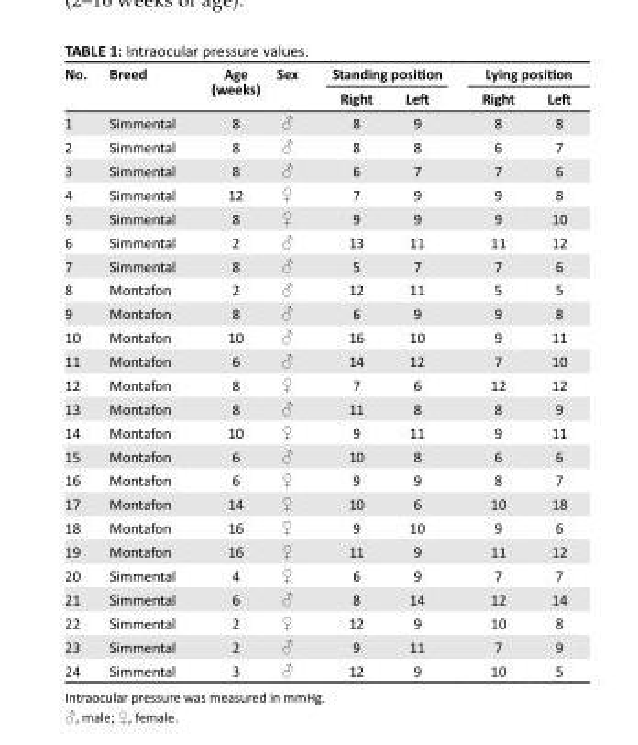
<table><thead><tr><td rowspan="2">No.</td><td rowspan="2">Breed</td><td rowspan="2">Age (weeks)</td><td rowspan="2">Sex</td><td colspan="2">Standing position</td><td colspan="2">Lying position</td></tr><tr><td>Right</td><td>Left</td><td>Right</td><td>Left</td></tr></thead><tbody><tr><td>1</td><td>Simmental</td><td>8</td><td>♂</td><td>8</td><td>9</td><td>8</td><td>8</td></tr><tr><td>2</td><td>Simmental</td><td>8</td><td>♂</td><td>8</td><td>8</td><td>6</td><td>7</td></tr><tr><td>3</td><td>Simmental</td><td>8</td><td>♂</td><td>6</td><td>7</td><td>7</td><td>6</td></tr><tr><td>4</td><td>Simmental</td><td>12</td><td>♀</td><td>7</td><td>9</td><td>9</td><td>8</td></tr><tr><td>5</td><td>Simmental</td><td>8</td><td>♀</td><td>9</td><td>9</td><td>9</td><td>10</td></tr><tr><td>6</td><td>Simmental</td><td>2</td><td>♂</td><td>13</td><td>11</td><td>11</td><td>12</td></tr><tr><td>7</td><td>Simmental</td><td>8</td><td>♂</td><td>5</td><td>7</td><td>7</td><td>6</td></tr><tr><td>8</td><td>Montafon</td><td>2</td><td>♂</td><td>12</td><td>11</td><td>5</td><td>5</td></tr><tr><td>9</td><td>Montafon</td><td>8</td><td>♂</td><td>6</td><td>9</td><td>9</td><td>8</td></tr><tr><td>10</td><td>Montafon</td><td>10</td><td>♂</td><td>16</td><td>10</td><td>9</td><td>11</td></tr><tr><td>11</td><td>Montafon</td><td>6</td><td>♂</td><td>14</td><td>12</td><td>7</td><td>10</td></tr><tr><td>12</td><td>Montafon</td><td>8</td><td>♀</td><td>7</td><td>6</td><td>12</td><td>12</td></tr><tr><td>13</td><td>Montafon</td><td>8</td><td>♂</td><td>11</td><td>8</td><td>8</td><td>9</td></tr><tr><td>14</td><td>Montafon</td><td>10</td><td>♀</td><td>9</td><td>11</td><td>9</td><td>11</td></tr><tr><td>15</td><td>Montafon</td><td>6</td><td>♂</td><td>10</td><td>8</td><td>6</td><td>6</td></tr><tr><td>16</td><td>Montafon</td><td>6</td><td>♀</td><td>9</td><td>9</td><td>8</td><td>7</td></tr><tr><td>17</td><td>Montafon</td><td>14</td><td>♀</td><td>10</td><td>6</td><td>10</td><td>18</td></tr><tr><td>18</td><td>Montafon</td><td>16</td><td>♀</td><td>9</td><td>10</td><td>9</td><td>6</td></tr><tr><td>19</td><td>Montafon</td><td>16</td><td>♀</td><td>11</td><td>9</td><td>11</td><td>12</td></tr><tr><td>20</td><td>Simmental</td><td>4</td><td>♀</td><td>6</td><td>9</td><td>7</td><td>7</td></tr><tr><td>21</td><td>Simmental</td><td>6</td><td>♂</td><td>8</td><td>14</td><td>12</td><td>14</td></tr><tr><td>22</td><td>Simmental</td><td>2</td><td>♀</td><td>12</td><td>9</td><td>10</td><td>8</td></tr><tr><td>23</td><td>Simmental</td><td>2</td><td>♂</td><td>9</td><td>11</td><td>7</td><td>9</td></tr><tr><td>24</td><td>Simmental</td><td>3</td><td>♂</td><td>12</td><td>9</td><td>10</td><td>5</td></tr></tbody></table>